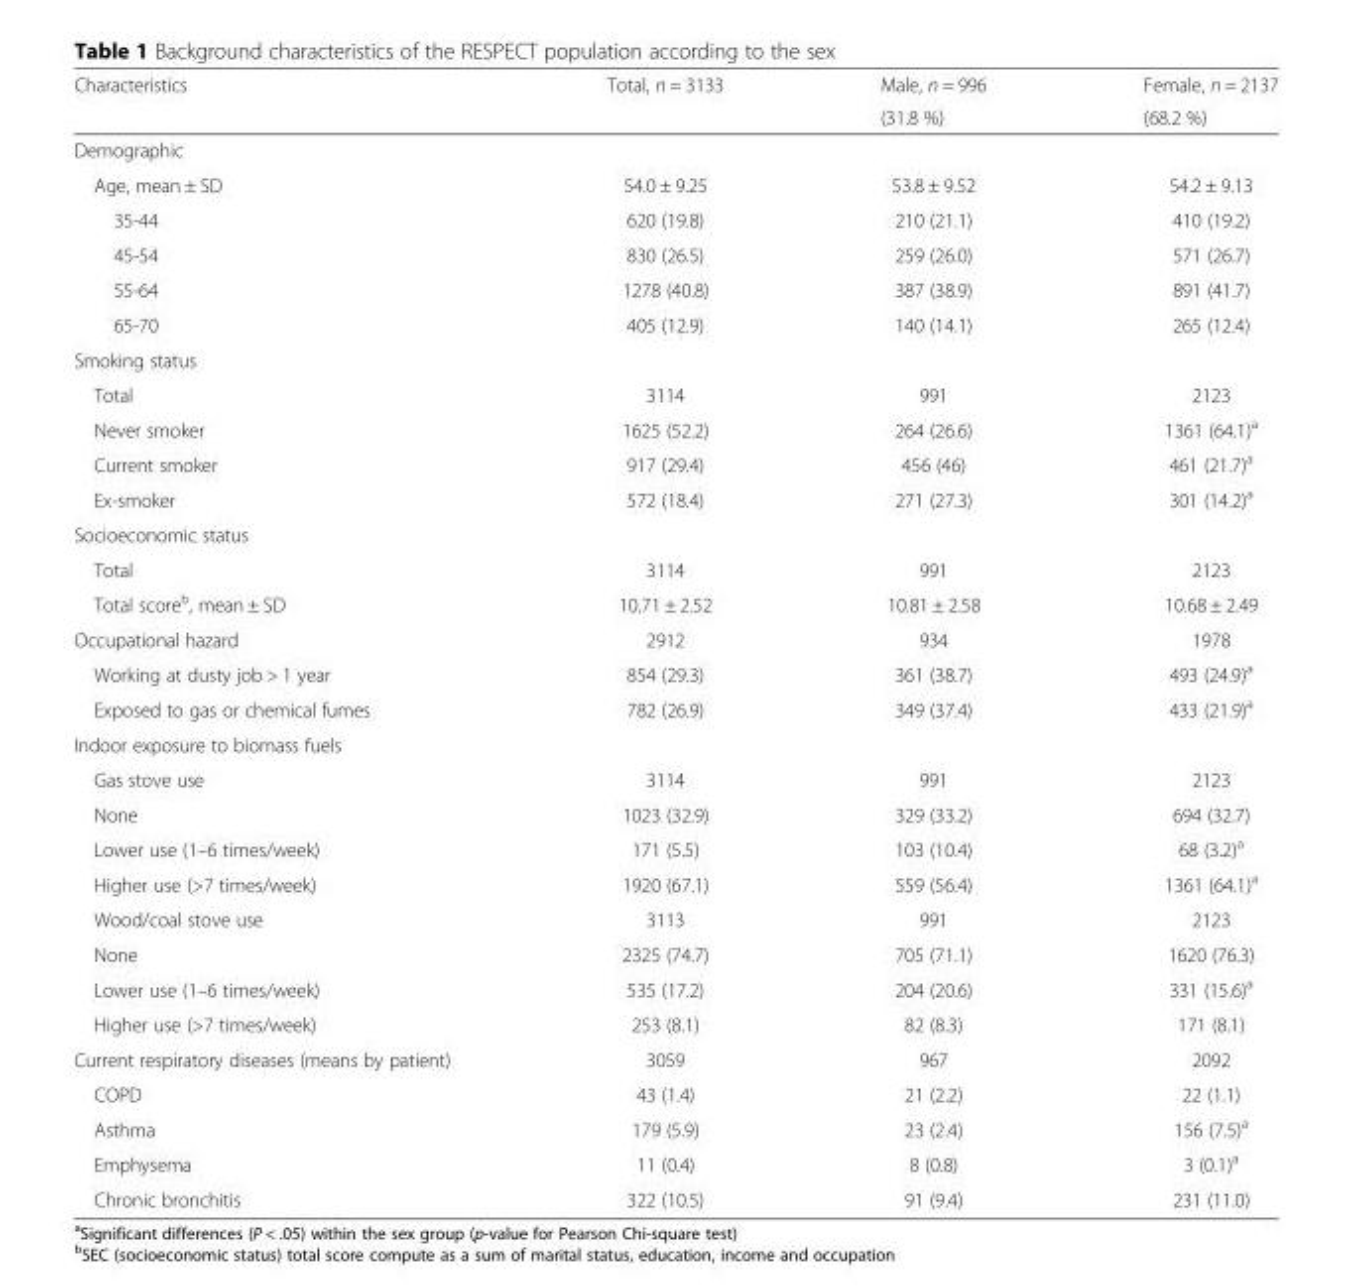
<table><thead><tr><td rowspan="2">Characteristics</td><td rowspan="2">Total, n = 3133</td><td rowspan="2">Male, n = 996 (31.8 %)</td><td rowspan="2">Female, n = 2137 (68.2 %)</td></tr><tr></tr></thead><tbody><tr><td colspan="4">Demographic</td></tr><tr><td>Age, mean ± SD</td><td>54.0 ± 9.25</td><td>53.8 ± 9.52</td><td>54.2 ± 9.13</td></tr><tr><td>35-44</td><td>620 (19.8)</td><td>210 (21.1)</td><td>410 (19.2)</td></tr><tr><td>45-54</td><td>830 (26.5)</td><td>259 (26.0)</td><td>571 (26.7)</td></tr><tr><td>55-64</td><td>1278 (40.8)</td><td>387 (38.9)</td><td>891 (41.7)</td></tr><tr><td>65-70</td><td>405 (12.9)</td><td>140 (14.1)</td><td>265 (12.4)</td></tr><tr><td colspan="4">Smoking status</td></tr><tr><td>Total</td><td>3114</td><td>991</td><td>2123</td></tr><tr><td>Never smoker</td><td>1625 (52.2)</td><td>264 (26.6)</td><td>1361 (64.1)<sup>a</sup></td></tr><tr><td>Current smoker</td><td>917 (29.4)</td><td>456 (46)</td><td>461 (21.7)<sup>a</sup></td></tr><tr><td>Ex-smoker</td><td>572 (18.4)</td><td>271 (27.3)</td><td>301 (14.2)<sup>a</sup></td></tr><tr><td colspan="4">Socioeconomic status</td></tr><tr><td>Total</td><td>3114</td><td>991</td><td>2123</td></tr><tr><td>Total score<sup>b</sup>, mean ± SD</td><td>10.71 ± 2.52</td><td>10.81 ± 2.58</td><td>10.68 ± 2.49</td></tr><tr><td>Occupational hazard</td><td>2912</td><td>934</td><td>1978</td></tr><tr><td>Working at dusty job &gt; 1 year</td><td>854 (29.3)</td><td>361 (38.7)</td><td>493 (24.9)<sup>a</sup></td></tr><tr><td>Exposed to gas or chemical fumes</td><td>782 (26.9)</td><td>349 (37.4)</td><td>433 (21.9)<sup>a</sup></td></tr><tr><td colspan="4">Indoor exposure to biomass fuels</td></tr><tr><td>Gas stove use</td><td>3114</td><td>991</td><td>2123</td></tr><tr><td>None</td><td>1023 (32.9)</td><td>329 (33.2)</td><td>694 (32.7)</td></tr><tr><td>Lower use (1–6 times/week)</td><td>171 (5.5)</td><td>103 (10.4)</td><td>68 (3.2)<sup>a</sup></td></tr><tr><td>Higher use (&gt;7 times/week)</td><td>1920 (67.1)</td><td>559 (56.4)</td><td>1361 (64.1)<sup>a</sup></td></tr><tr><td>Wood/coal stove use</td><td>3113</td><td>991</td><td>2123</td></tr><tr><td>None</td><td>2325 (74.7)</td><td>705 (71.1)</td><td>1620 (76.3)</td></tr><tr><td>Lower use (1–6 times/week)</td><td>535 (17.2)</td><td>204 (20.6)</td><td>331 (15.6)<sup>a</sup></td></tr><tr><td>Higher use (&gt;7 times/week)</td><td>253 (8.1)</td><td>82 (8.3)</td><td>171 (8.1)</td></tr><tr><td>Current respiratory diseases (means by patient)</td><td>3059</td><td>967</td><td>2092</td></tr><tr><td>COPD</td><td>43 (1.4)</td><td>21 (2.2)</td><td>22 (1.1)</td></tr><tr><td>Asthma</td><td>179 (5.9)</td><td>23 (2.4)</td><td>156 (7.5)<sup>a</sup></td></tr><tr><td>Emphysema</td><td>11 (0.4)</td><td>8 (0.8)</td><td>3 (0.1)<sup>a</sup></td></tr><tr><td>Chronic bronchitis</td><td>322 (10.5)</td><td>91 (9.4)</td><td>231 (11.0)</td></tr></tbody></table>